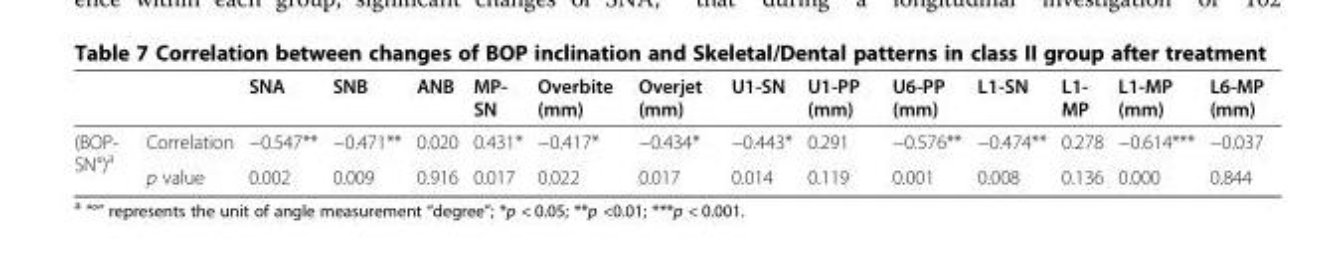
<table><thead><tr><td></td><td></td><td>SNA</td><td>SNB</td><td>ANB</td><td>MP- SN</td><td>Overbite (mm)</td><td>Overjet (mm)</td><td>U1-SN</td><td>U1-PP (mm)</td><td>U6-PP (mm)</td><td>L1-SN</td><td>L1- MP</td><td>L1-MP (mm)</td><td>L6-MP (mm)</td></tr></thead><tbody><tr><td rowspan="2">(BOP- SN°)<sup>a</sup></td><td>Correlation</td><td>−0.547**</td><td>−0.471**</td><td>0.020</td><td>0.431*</td><td>−0.417*</td><td>−0.434*</td><td>−0.443*</td><td>0.291</td><td>−0.576**</td><td>−0.474**</td><td>0.278</td><td>−0.614***</td><td>−0.037</td></tr><tr><td>p value</td><td>0.002</td><td>0.009</td><td>0.916</td><td>0.017</td><td>0.022</td><td>0.017</td><td>0.014</td><td>0.119</td><td>0.001</td><td>0.008</td><td>0.136</td><td>0.000</td><td>0.844</td></tr></tbody></table>